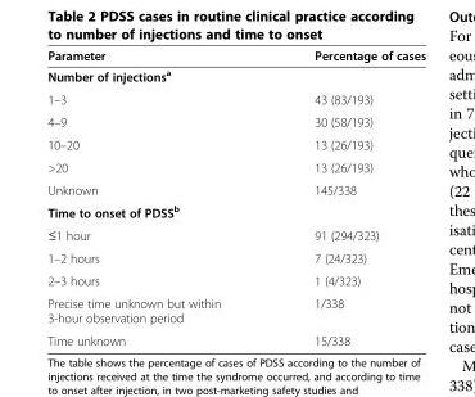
<table><thead><tr><td>Parameter</td><td>Percentage of cases</td></tr></thead><tbody><tr><td colspan="2">Number of injections<sup>a</sup></td></tr><tr><td>1–3</td><td>43 (83/193)</td></tr><tr><td>4–9</td><td>30 (58/193)</td></tr><tr><td>10–20</td><td>13 (26/193)</td></tr><tr><td>&gt;20</td><td>13 (26/193)</td></tr><tr><td>Unknown</td><td>145/338</td></tr><tr><td colspan="2">Time to onset of PDSS<sup>b</sup></td></tr><tr><td>≤1 hour</td><td>91 (294/323)</td></tr><tr><td>1–2 hours</td><td>7 (24/323)</td></tr><tr><td>2–3 hours</td><td>1 (4/323)</td></tr><tr><td>Precise time unknown but within 3-hour observation period</td><td>1/338</td></tr><tr><td>Time unknown</td><td>15/338</td></tr></tbody></table>